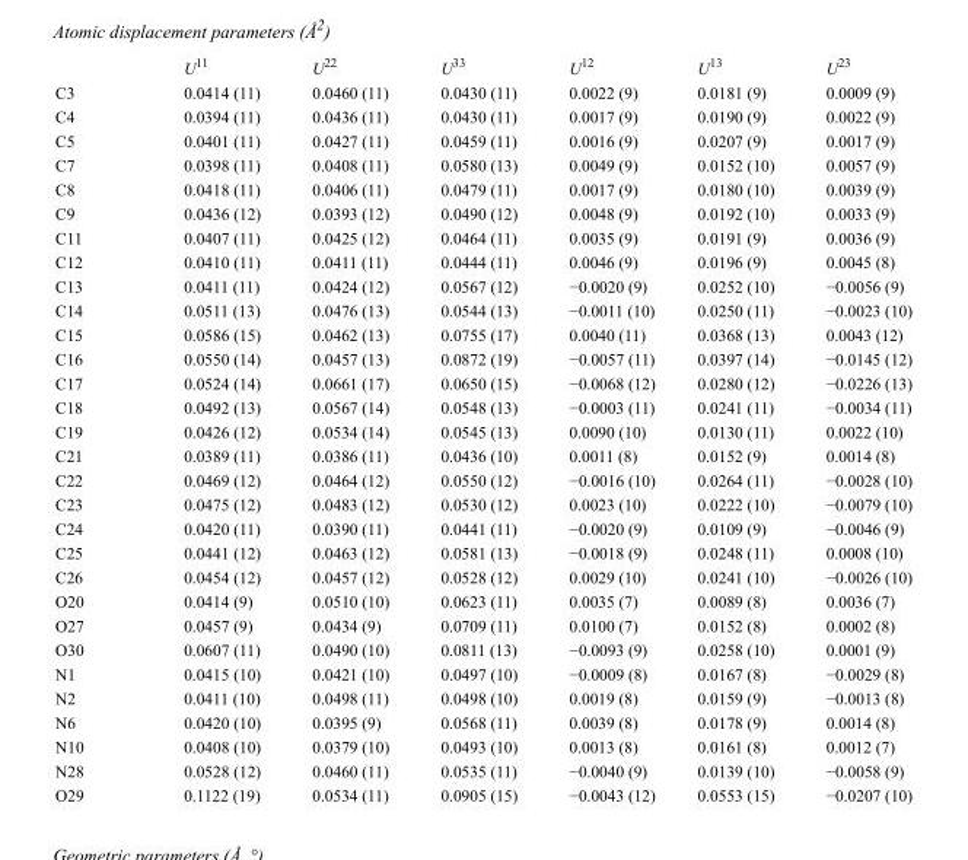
<table><thead><tr><td></td><td>U<sup>11</sup></td><td>U<sup>22</sup></td><td>U<sup>33</sup></td><td>U<sup>12</sup></td><td>U<sup>13</sup></td><td>U<sup>23</sup></td></tr></thead><tbody><tr><td>C3</td><td>0.0414 (11)</td><td>0.0460 (11)</td><td>0.0430 (11)</td><td>0.0022 (9)</td><td>0.0181 (9)</td><td>0.0009 (9)</td></tr><tr><td>C4</td><td>0.0394 (11)</td><td>0.0436 (11)</td><td>0.0430 (11)</td><td>0.0017 (9)</td><td>0.0190 (9)</td><td>0.0022 (9)</td></tr><tr><td>C5</td><td>0.0401 (11)</td><td>0.0427 (11)</td><td>0.0459 (11)</td><td>0.0016 (9)</td><td>0.0207 (9)</td><td>0.0017 (9)</td></tr><tr><td>C7</td><td>0.0398 (11)</td><td>0.0408 (11)</td><td>0.0580 (13)</td><td>0.0049 (9)</td><td>0.0152 (10)</td><td>0.0057 (9)</td></tr><tr><td>C8</td><td>0.0418 (11)</td><td>0.0406 (11)</td><td>0.0479 (11)</td><td>0.0017 (9)</td><td>0.0180 (10)</td><td>0.0039 (9)</td></tr><tr><td>C9</td><td>0.0436 (12)</td><td>0.0393 (12)</td><td>0.0490 (12)</td><td>0.0048 (9)</td><td>0.0192 (10)</td><td>0.0033 (9)</td></tr><tr><td>C11</td><td>0.0407 (11)</td><td>0.0425 (12)</td><td>0.0464 (11)</td><td>0.0035 (9)</td><td>0.0191 (9)</td><td>0.0036 (9)</td></tr><tr><td>C12</td><td>0.0410 (11)</td><td>0.0411 (11)</td><td>0.0444 (11)</td><td>0.0046 (9)</td><td>0.0196 (9)</td><td>0.0045 (8)</td></tr><tr><td>C13</td><td>0.0411 (11)</td><td>0.0424 (12)</td><td>0.0567 (12)</td><td>−0.0020 (9)</td><td>0.0252 (10)</td><td>−0.0056 (9)</td></tr><tr><td>C14</td><td>0.0511 (13)</td><td>0.0476 (13)</td><td>0.0544 (13)</td><td>−0.0011 (10)</td><td>0.0250 (11)</td><td>−0.0023 (10)</td></tr><tr><td>C15</td><td>0.0586 (15)</td><td>0.0462 (13)</td><td>0.0755 (17)</td><td>0.0040 (11)</td><td>0.0368 (13)</td><td>0.0043 (12)</td></tr><tr><td>C16</td><td>0.0550 (14)</td><td>0.0457 (13)</td><td>0.0872 (19)</td><td>−0.0057 (11)</td><td>0.0397 (14)</td><td>−0.0145 (12)</td></tr><tr><td>C17</td><td>0.0524 (14)</td><td>0.0661 (17)</td><td>0.0650 (15)</td><td>−0.0068 (12)</td><td>0.0280 (12)</td><td>−0.0226 (13)</td></tr><tr><td>C18</td><td>0.0492 (13)</td><td>0.0567 (14)</td><td>0.0548 (13)</td><td>−0.0003 (11)</td><td>0.0241 (11)</td><td>−0.0034 (11)</td></tr><tr><td>C19</td><td>0.0426 (12)</td><td>0.0534 (14)</td><td>0.0545 (13)</td><td>0.0090 (10)</td><td>0.0130 (11)</td><td>0.0022 (10)</td></tr><tr><td>C21</td><td>0.0389 (11)</td><td>0.0386 (11)</td><td>0.0436 (10)</td><td>0.0011 (8)</td><td>0.0152 (9)</td><td>0.0014 (8)</td></tr><tr><td>C22</td><td>0.0469 (12)</td><td>0.0464 (12)</td><td>0.0550 (12)</td><td>−0.0016 (10)</td><td>0.0264 (11)</td><td>−0.0028 (10)</td></tr><tr><td>C23</td><td>0.0475 (12)</td><td>0.0483 (12)</td><td>0.0530 (12)</td><td>0.0023 (10)</td><td>0.0222 (10)</td><td>−0.0079 (10)</td></tr><tr><td>C24</td><td>0.0420 (11)</td><td>0.0390 (11)</td><td>0.0441 (11)</td><td>−0.0020 (9)</td><td>0.0109 (9)</td><td>−0.0046 (9)</td></tr><tr><td>C25</td><td>0.0441 (12)</td><td>0.0463 (12)</td><td>0.0581 (13)</td><td>−0.0018 (9)</td><td>0.0248 (11)</td><td>0.0008 (10)</td></tr><tr><td>C26</td><td>0.0454 (12)</td><td>0.0457 (12)</td><td>0.0528 (12)</td><td>0.0029 (10)</td><td>0.0241 (10)</td><td>−0.0026 (10)</td></tr><tr><td>O20</td><td>0.0414 (9)</td><td>0.0510 (10)</td><td>0.0623 (11)</td><td>0.0035 (7)</td><td>0.0089 (8)</td><td>0.0036 (7)</td></tr><tr><td>O27</td><td>0.0457 (9)</td><td>0.0434 (9)</td><td>0.0709 (11)</td><td>0.0100 (7)</td><td>0.0152 (8)</td><td>0.0002 (8)</td></tr><tr><td>O30</td><td>0.0607 (11)</td><td>0.0490 (10)</td><td>0.0811 (13)</td><td>−0.0093 (9)</td><td>0.0258 (10)</td><td>0.0001 (9)</td></tr><tr><td>N1</td><td>0.0415 (10)</td><td>0.0421 (10)</td><td>0.0497 (10)</td><td>−0.0009 (8)</td><td>0.0167 (8)</td><td>−0.0029 (8)</td></tr><tr><td>N2</td><td>0.0411 (10)</td><td>0.0498 (11)</td><td>0.0498 (10)</td><td>0.0019 (8)</td><td>0.0159 (9)</td><td>−0.0013 (8)</td></tr><tr><td>N6</td><td>0.0420 (10)</td><td>0.0395 (9)</td><td>0.0568 (11)</td><td>0.0039 (8)</td><td>0.0178 (9)</td><td>0.0014 (8)</td></tr><tr><td>N10</td><td>0.0408 (10)</td><td>0.0379 (10)</td><td>0.0493 (10)</td><td>0.0013 (8)</td><td>0.0161 (8)</td><td>0.0012 (7)</td></tr><tr><td>N28</td><td>0.0528 (12)</td><td>0.0460 (11)</td><td>0.0535 (11)</td><td>−0.0040 (9)</td><td>0.0139 (10)</td><td>−0.0058 (9)</td></tr><tr><td>O29</td><td>0.1122 (19)</td><td>0.0534 (11)</td><td>0.0905 (15)</td><td>−0.0043 (12)</td><td>0.0553 (15)</td><td>−0.0207 (10)</td></tr></tbody></table>